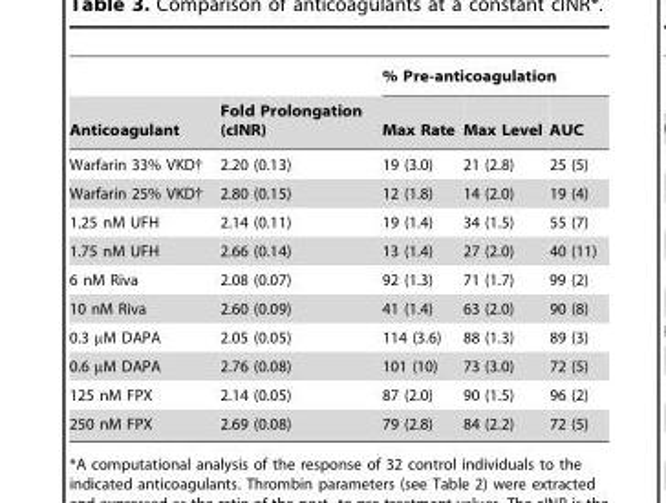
<table><thead><tr><td rowspan="2">Anticoagulant</td><td rowspan="2">Fold Prolongation (cINR)</td><td colspan="3">% Pre-anticoagulation</td></tr><tr><td>Max Rate</td><td>Max Level</td><td>AUC</td></tr></thead><tbody><tr><td>Warfarin 33% VKD†</td><td>2.20 (0.13)</td><td>19 (3.0)</td><td>21 (2.8)</td><td>25 (5)</td></tr><tr><td>Warfarin 25% VKD†</td><td>2.80 (0.15)</td><td>12 (1.8)</td><td>14 (2.0)</td><td>19 (4)</td></tr><tr><td>1.25 nM UFH</td><td>2.14 (0.11)</td><td>19 (1.4)</td><td>34 (1.5)</td><td>55 (7)</td></tr><tr><td>1.75 nM UFH</td><td>2.66 (0.14)</td><td>13 (1.4)</td><td>27 (2.0)</td><td>40 (11)</td></tr><tr><td>6 nM Riva</td><td>2.08 (0.07)</td><td>92 (1.3)</td><td>71 (1.7)</td><td>99 (2)</td></tr><tr><td>10 nM Riva</td><td>2.60 (0.09)</td><td>41 (1.4)</td><td>63 (2.0)</td><td>90 (8)</td></tr><tr><td>0.3 µM DAPA</td><td>2.05 (0.05)</td><td>114 (3.6)</td><td>88 (1.3)</td><td>89 (3)</td></tr><tr><td>0.6 µM DAPA</td><td>2.76 (0.08)</td><td>101 (10)</td><td>73 (3.0)</td><td>72 (5)</td></tr><tr><td>125 nM FPX</td><td>2.14 (0.05)</td><td>87 (2.0)</td><td>90 (1.5)</td><td>96 (2)</td></tr><tr><td>250 nM FPX</td><td>2.69 (0.08)</td><td>79 (2.8)</td><td>84 (2.2)</td><td>72 (5)</td></tr></tbody></table>